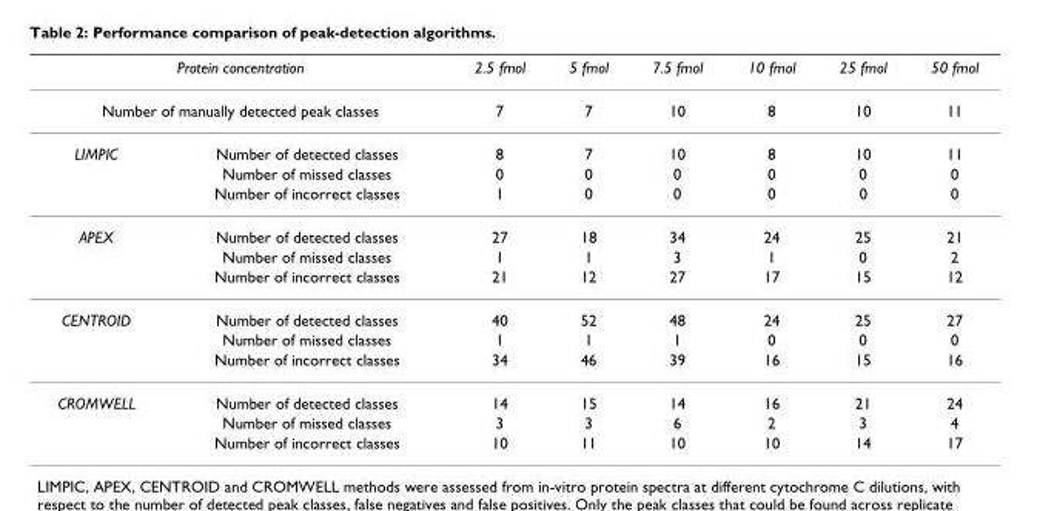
<table><thead><tr><td rowspan="2" colspan="2">Protein concentration Number of manually detected peak classes</td><td rowspan="3">2.5 fmol 7 8</td><td rowspan="3">5 fmol 7 7</td><td rowspan="3">7.5 fmol 10 10</td><td rowspan="3">10 fmol 8 8</td><td rowspan="3">25 fmol 10 10</td><td rowspan="3">50 fmol 11 11</td></tr><tr></tr><tr><td>LIMPIC</td><td>Number of detected classes</td></tr></thead><tbody><tr><td></td><td>Number of missed classes</td><td>0</td><td>0</td><td>0</td><td>0</td><td>0</td><td>0</td></tr><tr><td></td><td>Number of incorrect classes</td><td>1</td><td>0</td><td>0</td><td>0</td><td>0</td><td>0</td></tr><tr><td rowspan="3">APEX</td><td>Number of detected classes</td><td>27</td><td>18</td><td>34</td><td>24</td><td>25</td><td>21</td></tr><tr><td>Number of missed classes</td><td>1</td><td>1</td><td>3</td><td>1</td><td>0</td><td>2</td></tr><tr><td>Number of incorrect classes</td><td>21</td><td>12</td><td>27</td><td>17</td><td>15</td><td>12</td></tr><tr><td rowspan="3">CENTROID</td><td>Number of detected classes</td><td>40</td><td>52</td><td>48</td><td>24</td><td>25</td><td>27</td></tr><tr><td>Number of missed classes</td><td>1</td><td>1</td><td>1</td><td>0</td><td>0</td><td>0</td></tr><tr><td>Number of incorrect classes</td><td>34</td><td>46</td><td>39</td><td>16</td><td>15</td><td>16</td></tr><tr><td rowspan="3">CROMWELL</td><td>Number of detected classes</td><td>14</td><td>15</td><td>14</td><td>16</td><td>21</td><td>24</td></tr><tr><td>Number of missed classes</td><td>3</td><td>3</td><td>6</td><td>2</td><td>3</td><td>4</td></tr><tr><td>Number of incorrect classes</td><td>10</td><td>11</td><td>10</td><td>10</td><td>14</td><td>17</td></tr></tbody></table>